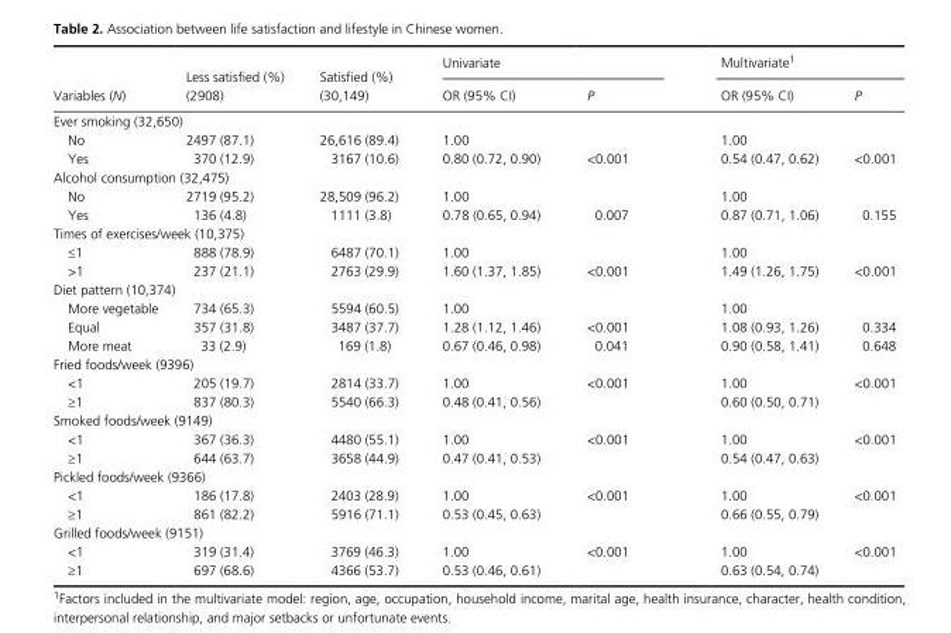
<table><thead><tr><td rowspan="2">Variables (N)</td><td rowspan="2">Less satisfied (%) (2908)</td><td rowspan="2">Satisfied (%) (30,149)</td><td colspan="2">Univariate</td><td colspan="2">Multivariate1</td></tr><tr><td>OR (95% CI)</td><td>P</td><td>OR (95% CI)</td><td>P</td></tr></thead><tbody><tr><td colspan="7">Ever smoking (32,650)</td></tr><tr><td>No</td><td>2497 (87.1)</td><td>26,616 (89.4)</td><td>1.00</td><td></td><td>1.00</td><td></td></tr><tr><td>Yes</td><td>370 (12.9)</td><td>3167 (10.6)</td><td>0.80 (0.72, 0.90)</td><td>&lt;0.001</td><td>0.54 (0.47, 0.62)</td><td>&lt;0.001</td></tr><tr><td colspan="7">Alcohol consumption (32,475)</td></tr><tr><td>No</td><td>2719 (95.2)</td><td>28,509 (96.2)</td><td>1.00</td><td></td><td>1.00</td><td></td></tr><tr><td>Yes</td><td>136 (4.8)</td><td>1111 (3.8)</td><td>0.78 (0.65, 0.94)</td><td>0.007</td><td>0.87 (0.71, 1.06)</td><td>0.155</td></tr><tr><td colspan="7">Times of exercises/week (10,375)</td></tr><tr><td>≤1</td><td>888 (78.9)</td><td>6487 (70.1)</td><td>1.00</td><td></td><td>1.00</td><td></td></tr><tr><td>&gt;1</td><td>237 (21.1)</td><td>2763 (29.9)</td><td>1.60 (1.37, 1.85)</td><td>&lt;0.001</td><td>1.49 (1.26, 1.75)</td><td>&lt;0.001</td></tr><tr><td colspan="7">Diet pattern (10,374)</td></tr><tr><td>More vegetable</td><td>734 (65.3)</td><td>5594 (60.5)</td><td>1.00</td><td></td><td>1.00</td><td></td></tr><tr><td>Equal</td><td>357 (31.8)</td><td>3487 (37.7)</td><td>1.28 (1.12, 1.46)</td><td>&lt;0.001</td><td>1.08 (0.93, 1.26)</td><td>0.334</td></tr><tr><td>More meat</td><td>33 (2.9)</td><td>169 (1.8)</td><td>0.67 (0.46, 0.98)</td><td>0.041</td><td>0.90 (0.58, 1.41)</td><td>0.648</td></tr><tr><td colspan="7">Fried foods/week (9396)</td></tr><tr><td>&lt;1</td><td>205 (19.7)</td><td>2814 (33.7)</td><td>1.00</td><td>&lt;0.001</td><td>1.00</td><td>&lt;0.001</td></tr><tr><td>≥1</td><td>837 (80.3)</td><td>5540 (66.3)</td><td>0.48 (0.41, 0.56)</td><td></td><td>0.60 (0.50, 0.71)</td><td></td></tr><tr><td colspan="7">Smoked foods/week (9149)</td></tr><tr><td>&lt;1</td><td>367 (36.3)</td><td>4480 (55.1)</td><td>1.00</td><td>&lt;0.001</td><td>1.00</td><td>&lt;0.001</td></tr><tr><td>≥1</td><td>644 (63.7)</td><td>3658 (44.9)</td><td>0.47 (0.41, 0.53)</td><td></td><td>0.54 (0.47, 0.63)</td><td></td></tr><tr><td colspan="7">Pickled foods/week (9366)</td></tr><tr><td>&lt;1</td><td>186 (17.8)</td><td>2403 (28.9)</td><td>1.00</td><td>&lt;0.001</td><td>1.00</td><td>&lt;0.001</td></tr><tr><td>≥1</td><td>861 (82.2)</td><td>5916 (71.1)</td><td>0.53 (0.45, 0.63)</td><td></td><td>0.66 (0.55, 0.79)</td><td></td></tr><tr><td colspan="7">Grilled foods/week (9151)</td></tr><tr><td>&lt;1</td><td>319 (31.4)</td><td>3769 (46.3)</td><td>1.00</td><td>&lt;0.001</td><td>1.00</td><td>&lt;0.001</td></tr><tr><td>≥1</td><td>697 (68.6)</td><td>4366 (53.7)</td><td>0.53 (0.46, 0.61)</td><td></td><td>0.63 (0.54, 0.74)</td><td></td></tr></tbody></table>